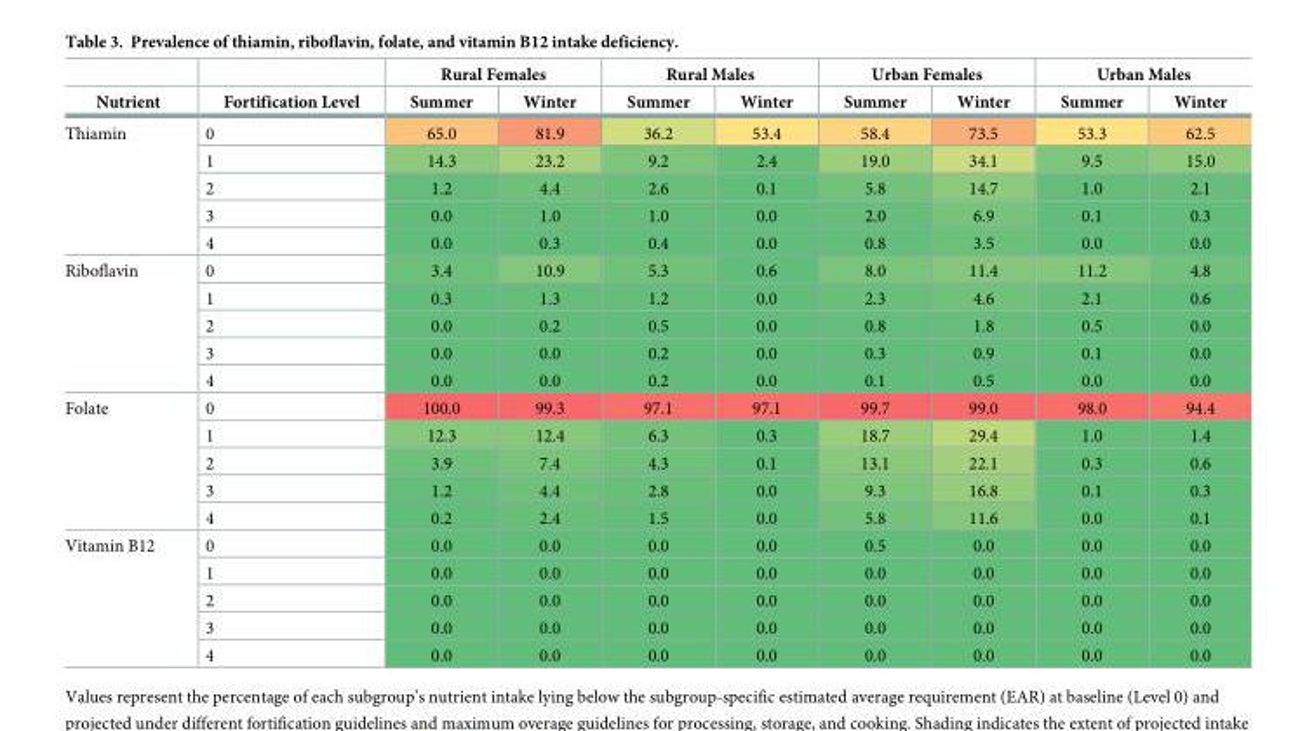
<table><thead><tr><td rowspan="2">Nutrient</td><td rowspan="2">Fortification Level</td><td colspan="2">Rural Females</td><td colspan="2">Rural Males</td><td colspan="2">Urban Females</td><td colspan="2">Urban Males</td></tr><tr><td>Summer</td><td>Winter</td><td>Summer</td><td>Winter</td><td>Summer</td><td>Winter</td><td>Summer</td><td>Winter</td></tr></thead><tbody><tr><td rowspan="5">Thiamin</td><td>0</td><td>65.0</td><td>81.9</td><td>36.2</td><td>53.4</td><td>58.4</td><td>73.5</td><td>53.3</td><td>62.5</td></tr><tr><td>1</td><td>14.3</td><td>23.2</td><td>9.2</td><td>2.4</td><td>19.0</td><td>34.1</td><td>9.5</td><td>15.0</td></tr><tr><td>2</td><td>1.2</td><td>4.4</td><td>2.6</td><td>0.1</td><td>5.8</td><td>14.7</td><td>1.0</td><td>2.1</td></tr><tr><td>3</td><td>0.0</td><td>1.0</td><td>1.0</td><td>0.0</td><td>2.0</td><td>6.9</td><td>0.1</td><td>0.3</td></tr><tr><td>4</td><td>0.0</td><td>0.3</td><td>0.4</td><td>0.0</td><td>0.8</td><td>3.5</td><td>0.0</td><td>0.0</td></tr><tr><td rowspan="5">Riboflavin</td><td>0</td><td>3.4</td><td>10.9</td><td>5.3</td><td>0.6</td><td>8.0</td><td>11.4</td><td>11.2</td><td>4.8</td></tr><tr><td>1</td><td>0.3</td><td>1.3</td><td>1.2</td><td>0.0</td><td>2.3</td><td>4.6</td><td>2.1</td><td>0.6</td></tr><tr><td>2</td><td>0.0</td><td>0.2</td><td>0.5</td><td>0.0</td><td>0.8</td><td>1.8</td><td>0.5</td><td>0.0</td></tr><tr><td>3</td><td>0.0</td><td>0.0</td><td>0.2</td><td>0.0</td><td>0.3</td><td>0.9</td><td>0.1</td><td>0.0</td></tr><tr><td>4</td><td>0.0</td><td>0.0</td><td>0.2</td><td>0.0</td><td>0.1</td><td>0.5</td><td>0.0</td><td>0.0</td></tr><tr><td rowspan="5">Folate</td><td>0</td><td>100.0</td><td>99.3</td><td>97.1</td><td>97.1</td><td>99.7</td><td>99.0</td><td>98.0</td><td>94.4</td></tr><tr><td>1</td><td>12.3</td><td>12.4</td><td>6.3</td><td>0.3</td><td>18.7</td><td>29.4</td><td>1.0</td><td>1.4</td></tr><tr><td>2</td><td>3.9</td><td>7.4</td><td>4.3</td><td>0.1</td><td>13.1</td><td>22.1</td><td>0.3</td><td>0.6</td></tr><tr><td>3</td><td>1.2</td><td>4.4</td><td>2.8</td><td>0.0</td><td>9.3</td><td>16.8</td><td>0.1</td><td>0.3</td></tr><tr><td>4</td><td>0.2</td><td>2.4</td><td>1.5</td><td>0.0</td><td>5.8</td><td>11.6</td><td>0.0</td><td>0.1</td></tr><tr><td rowspan="5">Vitamin B12</td><td>0</td><td>0.0</td><td>0.0</td><td>0.0</td><td>0.0</td><td>0.5</td><td>0.0</td><td>0.0</td><td>0.0</td></tr><tr><td>1</td><td>0.0</td><td>0.0</td><td>0.0</td><td>0.0</td><td>0.0</td><td>0.0</td><td>0.0</td><td>0.0</td></tr><tr><td>2</td><td>0.0</td><td>0.0</td><td>0.0</td><td>0.0</td><td>0.0</td><td>0.0</td><td>0.0</td><td>0.0</td></tr><tr><td>3</td><td>0.0</td><td>0.0</td><td>0.0</td><td>0.0</td><td>0.0</td><td>0.0</td><td>0.0</td><td>0.0</td></tr><tr><td>4</td><td>0.0</td><td>0.0</td><td>0.0</td><td>0.0</td><td>0.0</td><td>0.0</td><td>0.0</td><td>0.0</td></tr></tbody></table>